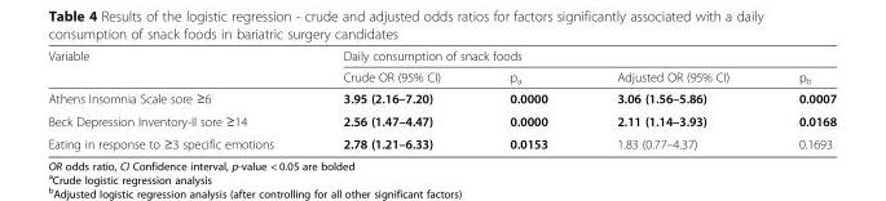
<table><thead><tr><td rowspan="2">Variable</td><td colspan="4">Daily consumption of snack foods</td></tr><tr><td>Crude OR (95% CI)</td><td>p<sub>a</sub></td><td>Adjusted OR (95% CI)</td><td>p<sub>b</sub></td></tr></thead><tbody><tr><td>Athens Insomnia Scale sore ≥6</td><td>3.95 (2.16–7.20)</td><td>0.0000</td><td>3.06 (1.56–5.86)</td><td>0.0007</td></tr><tr><td>Beck Depression Inventory-II sore ≥14</td><td>2.56 (1.47–4.47)</td><td>0.0000</td><td>2.11 (1.14–3.93)</td><td>0.0168</td></tr><tr><td>Eating in response to ≥3 specific emotions</td><td>2.78 (1.21–6.33)</td><td>0.0153</td><td>1.83 (0.77–4.37)</td><td>0.1693</td></tr></tbody></table>